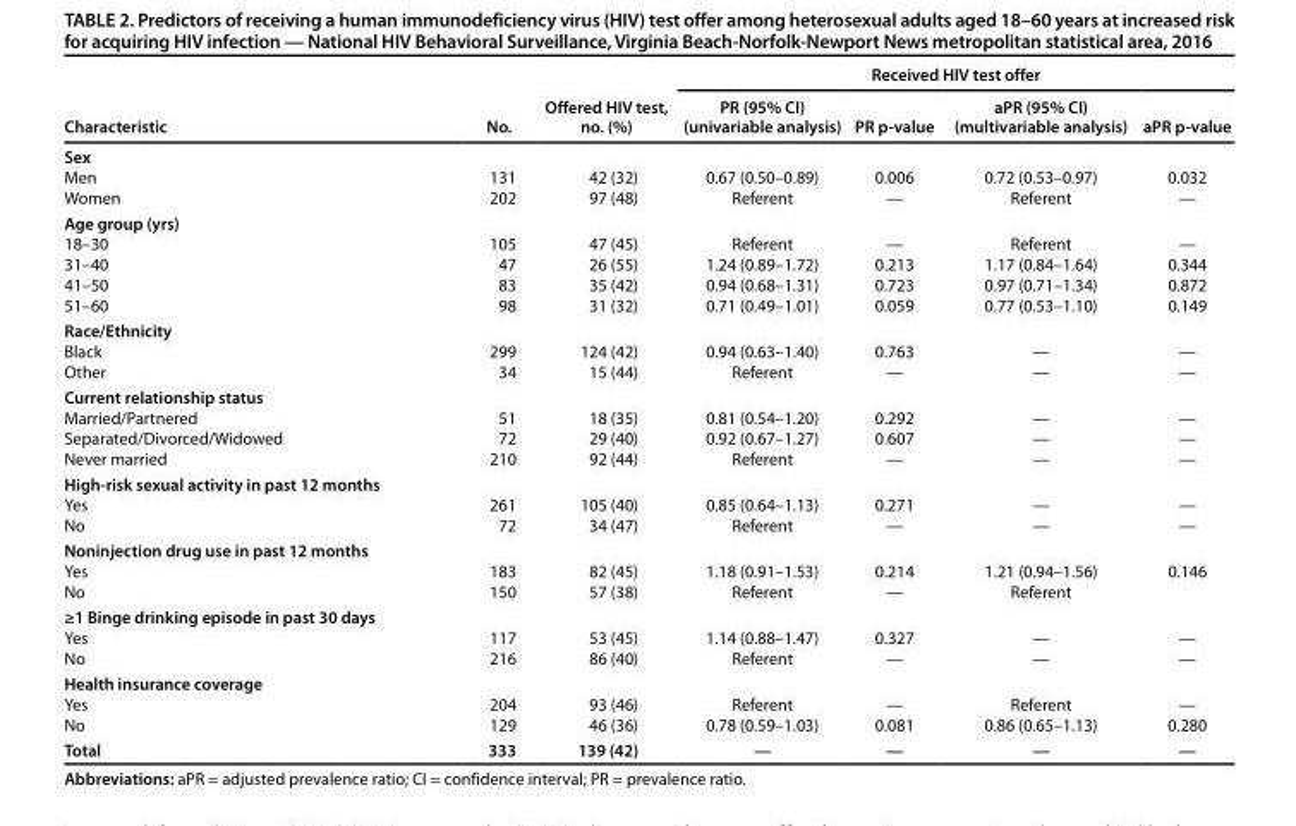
<table><thead><tr><td rowspan="2">Characteristic</td><td rowspan="2">No.</td><td rowspan="2">Offered HIV test, no. (%)</td><td colspan="4">Received HIV test offer</td></tr><tr><td>PR (95% CI) (univariable analysis)</td><td>PR p-value</td><td>aPR (95% CI) (multivariable analysis)</td><td>aPR p-value</td></tr></thead><tbody><tr><td colspan="7">Sex</td></tr><tr><td>Men</td><td>131</td><td>42 (32)</td><td>0.67 (0.50–0.89)</td><td>0.006</td><td>0.72 (0.53–0.97)</td><td>0.032</td></tr><tr><td>Women</td><td>202</td><td>97 (48)</td><td>Referent</td><td>—</td><td>Referent</td><td>—</td></tr><tr><td colspan="7">Age group (yrs)</td></tr><tr><td>18–30</td><td>105</td><td>47 (45)</td><td>Referent</td><td>—</td><td>Referent</td><td>—</td></tr><tr><td>31–40</td><td>47</td><td>26 (55)</td><td>1.24 (0.89–1.72)</td><td>0.213</td><td>1.17 (0.84–1.64)</td><td>0.344</td></tr><tr><td>41–50</td><td>83</td><td>35 (42)</td><td>0.94 (0.68–1.31)</td><td>0.723</td><td>0.97 (0.71–1.34)</td><td>0.872</td></tr><tr><td>51–60</td><td>98</td><td>31 (32)</td><td>0.71 (0.49–1.01)</td><td>0.059</td><td>0.77 (0.53–1.10)</td><td>0.149</td></tr><tr><td colspan="7">Race/Ethnicity</td></tr><tr><td>Black</td><td>299</td><td>124 (42)</td><td>0.94 (0.63–1.40)</td><td>0.763</td><td>—</td><td>—</td></tr><tr><td>Other</td><td>34</td><td>15 (44)</td><td>Referent</td><td>—</td><td>—</td><td>—</td></tr><tr><td colspan="7">Current relationship status</td></tr><tr><td>Married/Partnered</td><td>51</td><td>18 (35)</td><td>0.81 (0.54–1.20)</td><td>0.292</td><td>—</td><td>—</td></tr><tr><td>Separated/Divorced/Widowed</td><td>72</td><td>29 (40)</td><td>0.92 (0.67–1.27)</td><td>0.607</td><td>—</td><td>—</td></tr><tr><td>Never married</td><td>210</td><td>92 (44)</td><td>Referent</td><td>—</td><td>—</td><td>—</td></tr><tr><td colspan="7">High-risk sexual activity in past 12 months</td></tr><tr><td>Yes</td><td>261</td><td>105 (40)</td><td>0.85 (0.64–1.13)</td><td>0.271</td><td>—</td><td>—</td></tr><tr><td>No</td><td>72</td><td>34 (47)</td><td>Referent</td><td>—</td><td>—</td><td>—</td></tr><tr><td colspan="7">Noninjection drug use in past 12 months</td></tr><tr><td>Yes</td><td>183</td><td>82 (45)</td><td>1.18 (0.91–1.53)</td><td>0.214</td><td>1.21 (0.94–1.56)</td><td>0.146</td></tr><tr><td>No</td><td>150</td><td>57 (38)</td><td>Referent</td><td>—</td><td>Referent</td><td></td></tr><tr><td colspan="7">≥1 Binge drinking episode in past 30 days</td></tr><tr><td>Yes</td><td>117</td><td>53 (45)</td><td>1.14 (0.88–1.47)</td><td>0.327</td><td>—</td><td>—</td></tr><tr><td>No</td><td>216</td><td>86 (40)</td><td>Referent</td><td>—</td><td>—</td><td>—</td></tr><tr><td colspan="7">Health insurance coverage</td></tr><tr><td>Yes</td><td>204</td><td>93 (46)</td><td>Referent</td><td>—</td><td>Referent</td><td>—</td></tr><tr><td>No</td><td>129</td><td>46 (36)</td><td>0.78 (0.59–1.03)</td><td>0.081</td><td>0.86 (0.65–1.13)</td><td>0.280</td></tr><tr><td>Total</td><td>333</td><td>139 (42)</td><td>—</td><td>—</td><td>—</td><td>—</td></tr></tbody></table>